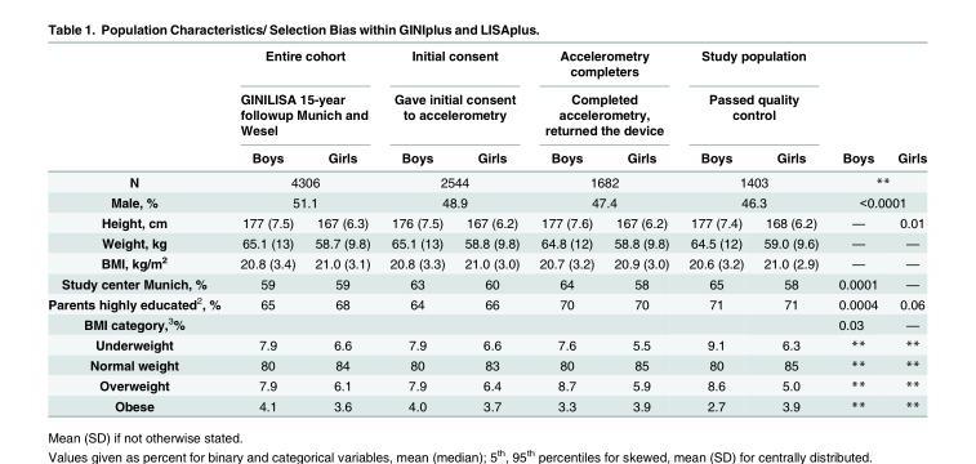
<table><thead><tr><td rowspan="3"></td><td rowspan="2" colspan="2">Entire cohort GINILISA 15-year followup Munich and Wesel</td><td rowspan="2" colspan="2">Initial consent Gave initial consent to accelerometry</td><td rowspan="2" colspan="2">Accelerometry completers Completed accelerometry, returned the device</td><td rowspan="2" colspan="2">Study population Passed quality control</td><td rowspan="3">Boys</td><td rowspan="3">Girls</td></tr><tr></tr><tr><td>Boys</td><td>Girls</td><td>Boys</td><td>Girls</td><td>Boys</td><td>Girls</td><td>Boys</td><td>Girls</td></tr></thead><tbody><tr><td>N</td><td colspan="2">4306</td><td colspan="2">2544</td><td colspan="2">1682</td><td colspan="2">1403</td><td colspan="2">**</td></tr><tr><td>Male, %</td><td colspan="2">51.1</td><td colspan="2">48.9</td><td colspan="2">47.4</td><td colspan="2">46.3</td><td colspan="2">&lt;0.0001</td></tr><tr><td>Height, cm</td><td>177 (7.5)</td><td>167 (6.3)</td><td>176 (7.5)</td><td>167 (6.2)</td><td>177 (7.6)</td><td>167 (6.2)</td><td>177 (7.4)</td><td>168 (6.2)</td><td>—</td><td>0.01</td></tr><tr><td>Weight, kg</td><td>65.1 (13)</td><td>58.7 (9.8)</td><td>65.1 (13)</td><td>58.8 (9.8)</td><td>64.8 (12)</td><td>58.8 (9.8)</td><td>64.5 (12)</td><td>59.0 (9.6)</td><td>—</td><td>—</td></tr><tr><td>BMI, kg/m<sup>2</sup></td><td>20.8 (3.4)</td><td>21.0 (3.1)</td><td>20.8 (3.3)</td><td>21.0 (3.0)</td><td>20.7 (3.2)</td><td>20.9 (3.0)</td><td>20.6 (3.2)</td><td>21.0 (2.9)</td><td>—</td><td>—</td></tr><tr><td>Study center Munich, %</td><td>59</td><td>59</td><td>63</td><td>60</td><td>64</td><td>58</td><td>65</td><td>58</td><td>0.0001</td><td>—</td></tr><tr><td>Parents highly educated<sup>2</sup>, %</td><td>65</td><td>68</td><td>64</td><td>66</td><td>70</td><td>70</td><td>71</td><td>71</td><td>0.0004</td><td>0.06</td></tr><tr><td>BMI category,<sup>3</sup>%</td><td></td><td></td><td></td><td></td><td></td><td></td><td></td><td></td><td>0.03</td><td>—</td></tr><tr><td>Underweight</td><td>7.9</td><td>6.6</td><td>7.9</td><td>6.6</td><td>7.6</td><td>5.5</td><td>9.1</td><td>6.3</td><td>**</td><td>**</td></tr><tr><td>Normal weight</td><td>80</td><td>84</td><td>80</td><td>83</td><td>80</td><td>85</td><td>80</td><td>85</td><td>**</td><td>**</td></tr><tr><td>Overweight</td><td>7.9</td><td>6.1</td><td>7.9</td><td>6.4</td><td>8.7</td><td>5.9</td><td>8.6</td><td>5.0</td><td>**</td><td>**</td></tr><tr><td>Obese</td><td>4.1</td><td>3.6</td><td>4.0</td><td>3.7</td><td>3.3</td><td>3.9</td><td>2.7</td><td>3.9</td><td>**</td><td>**</td></tr></tbody></table>